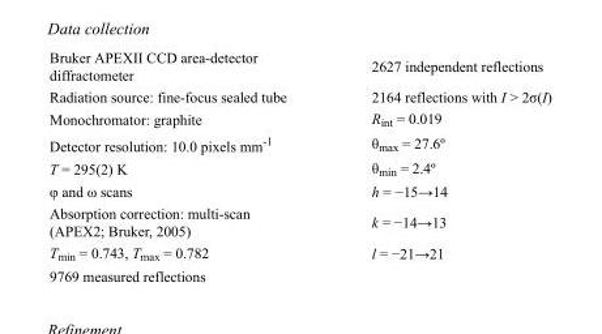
<table><tbody><tr><td>Bruker APEXII CCD area-detector diffractometer</td><td>2627 independent reflections</td></tr><tr><td>Radiation source: fine-focus sealed tube</td><td>2164 reflections with I &gt; 2σ(I)</td></tr><tr><td>Monochromator: graphite</td><td>R<sub>int</sub> = 0.019</td></tr><tr><td>Detector resolution: 10.0 pixels mm<sup>-1</sup></td><td>θ<sub>max</sub> = 27.6º</td></tr><tr><td>T = 295(2) K</td><td>θ<sub>min</sub> = 2.4º</td></tr><tr><td>φ and ω scans</td><td>h = −15→14</td></tr><tr><td>Absorption correction: multi-scan (APEX2; Bruker, 2005)</td><td>k = −14→13</td></tr><tr><td>T<sub>min</sub> = 0.743, T<sub>max</sub> = 0.782</td><td>l = −21→21</td></tr><tr><td>9769 measured reflections</td><td></td></tr></tbody></table>